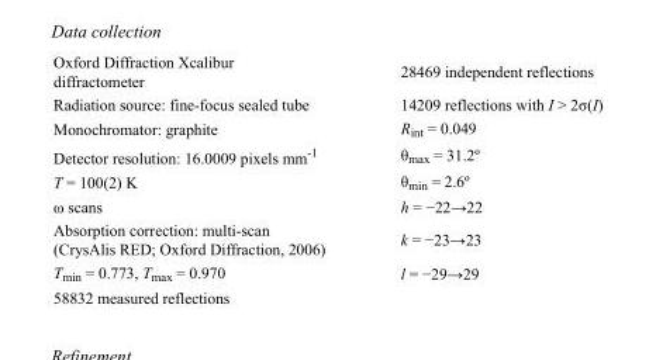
<table><tbody><tr><td>Oxford Diffraction Xcalibur diffractometer</td><td>28469 independent reflections</td></tr><tr><td>Radiation source: fine-focus sealed tube</td><td>14209 reflections with I &gt; 2σ(I)</td></tr><tr><td>Monochromator: graphite</td><td>R<sub>int</sub> = 0.049</td></tr><tr><td>Detector resolution: 16.0009 pixels mm<sup>-1</sup></td><td>θ<sub>max</sub> = 31.2º</td></tr><tr><td>T = 100(2) K</td><td>θ<sub>min</sub> = 2.6º</td></tr><tr><td>ω scans</td><td>h = −22→22</td></tr><tr><td>Absorption correction: multi-scan (CrysAlis RED; Oxford Diffraction, 2006)</td><td>k = −23→23</td></tr><tr><td>T<sub>min</sub> = 0.773, T<sub>max</sub> = 0.970</td><td>l = −29→29</td></tr><tr><td>58832 measured reflections</td><td></td></tr></tbody></table>